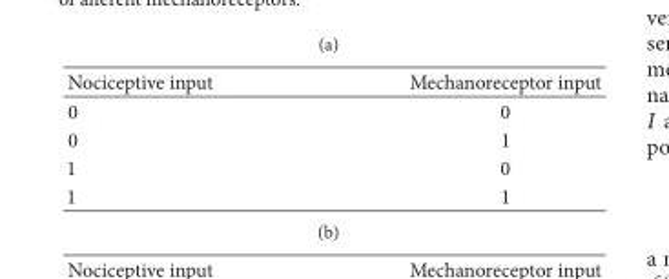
<table><thead><tr><td>Nociceptive input</td><td>Mechanoreceptor input</td></tr></thead><tbody><tr><td>0</td><td>0</td></tr><tr><td>0</td><td>1</td></tr><tr><td>1</td><td>0</td></tr><tr><td>1</td><td>1</td></tr></tbody></table>